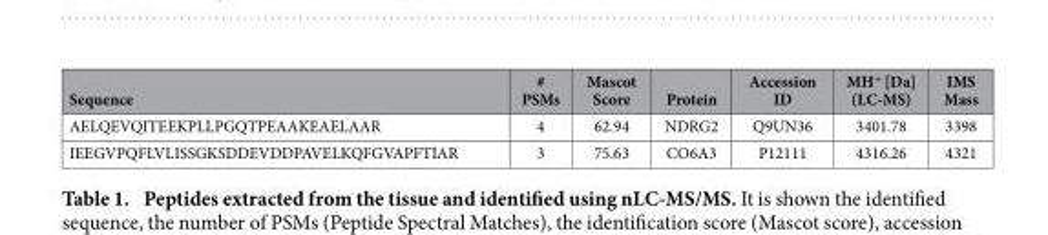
<table><thead><tr><td>Sequence</td><td># PSMs</td><td>Mascot Score</td><td>Protein</td><td>Accession ID</td><td>MH<sup>+</sup> [Da] (LC-MS)</td><td>IMS Mass</td></tr></thead><tbody><tr><td>AELQEVQITEEKPLLPGQTPEAAKEAELAAR</td><td>4</td><td>62.94</td><td>NDRG2</td><td>Q9UN36</td><td>3401.78</td><td>3398</td></tr><tr><td>IEEGVPQFLVLISSGKSDDEVDDPAVELKQFGVAPFTIAR</td><td>3</td><td>75.63</td><td>CO6A3</td><td>P12111</td><td>4316.26</td><td>4321</td></tr></tbody></table>